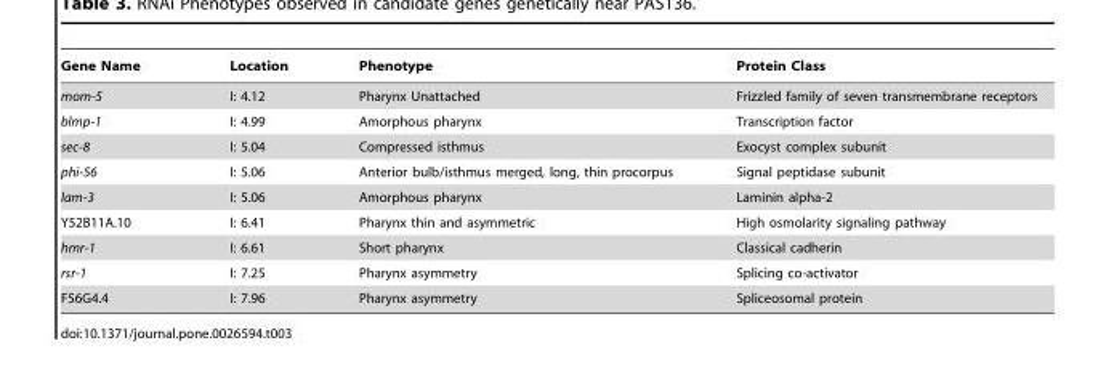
<table><thead><tr><td>Gene Name</td><td>Location</td><td>Phenotype</td><td>Protein Class</td></tr></thead><tbody><tr><td>mom-5</td><td>I: 4.12</td><td>Pharynx Unattached</td><td>Frizzled family of seven transmembrane receptors</td></tr><tr><td>blmp-1</td><td>I: 4.99</td><td>Amorphous pharynx</td><td>Transcription factor</td></tr><tr><td>sec-8</td><td>I: 5.04</td><td>Compressed isthmus</td><td>Exocyst complex subunit</td></tr><tr><td>phi-56</td><td>I: 5.06</td><td>Anterior bulb/isthmus merged, long, thin procorpus</td><td>Signal peptidase subunit</td></tr><tr><td>lam-3</td><td>I: 5.06</td><td>Amorphous pharynx</td><td>Laminin alpha-2</td></tr><tr><td>Y52B11A.10</td><td>I: 6.41</td><td>Pharynx thin and asymmetric</td><td>High osmolarity signaling pathway</td></tr><tr><td>hmr-1</td><td>I: 6.61</td><td>Short pharynx</td><td>Classical cadherin</td></tr><tr><td>rsr-1</td><td>I: 7.25</td><td>Pharynx asymmetry</td><td>Splicing co-activator</td></tr><tr><td>F56G4.4</td><td>I: 7.96</td><td>Pharynx asymmetry</td><td>Spliceosomal protein</td></tr></tbody></table>